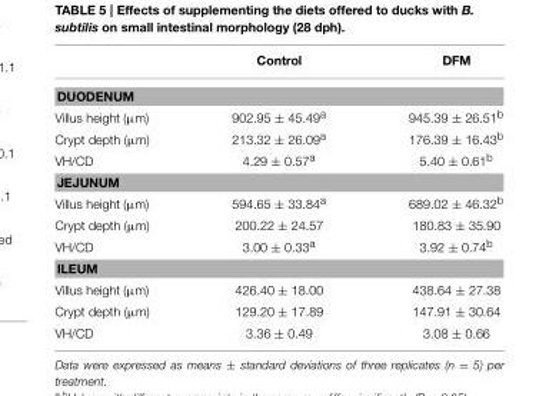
<table><thead><tr><td></td><td>Control</td><td>DFM</td></tr></thead><tbody><tr><td colspan="3">DUODENUM</td></tr><tr><td>Villus height (µm)</td><td>902.95 ± 45.49<sup>a</sup></td><td>945.39 ± 26.51<sup>b</sup></td></tr><tr><td>Crypt depth (µm)</td><td>213.32 ± 26.09<sup>a</sup></td><td>176.39 ± 16.43<sup>b</sup></td></tr><tr><td>VH/CD</td><td>4.29 ± 0.57<sup>a</sup></td><td>5.40 ± 0.61<sup>b</sup></td></tr><tr><td colspan="3">JEJUNUM</td></tr><tr><td>Villus height (µm)</td><td>594.65 ± 33.84<sup>a</sup></td><td>689.02 ± 46.32<sup>b</sup></td></tr><tr><td>Crypt depth (µm)</td><td>200.22 ± 24.57</td><td>180.83 ± 35.90</td></tr><tr><td>VH/CD</td><td>3.00 ± 0.33<sup>a</sup></td><td>3.92 ± 0.74<sup>b</sup></td></tr><tr><td colspan="3">ILEUM</td></tr><tr><td>Villus height (µm)</td><td>426.40 ± 18.00</td><td>438.64 ± 27.38</td></tr><tr><td>Crypt depth (µm)</td><td>129.20 ± 17.89</td><td>147.91 ± 30.64</td></tr><tr><td>VH/CD</td><td>3.36 ± 0.49</td><td>3.08 ± 0.66</td></tr></tbody></table>